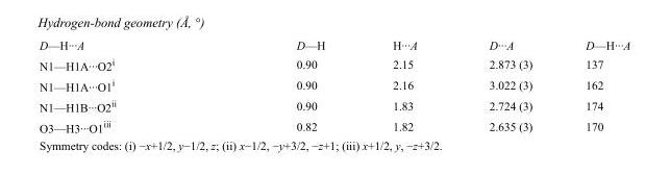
<table><tbody><tr><td>D—H···A</td><td>D—H</td><td>H···A</td><td>D···A</td><td>D—H···A</td></tr><tr><td>N1—H1A···O2<sup>i</sup></td><td>0.90</td><td>2.15</td><td>2.873 (3)</td><td>137</td></tr><tr><td>N1—H1A···O1<sup>i</sup></td><td>0.90</td><td>2.16</td><td>3.022 (3)</td><td>162</td></tr><tr><td>N1—H1B···O2<sup>ii</sup></td><td>0.90</td><td>1.83</td><td>2.724 (3)</td><td>174</td></tr><tr><td>O3—H3···O1<sup>iii</sup></td><td>0.82</td><td>1.82</td><td>2.635 (3)</td><td>170</td></tr></tbody></table>